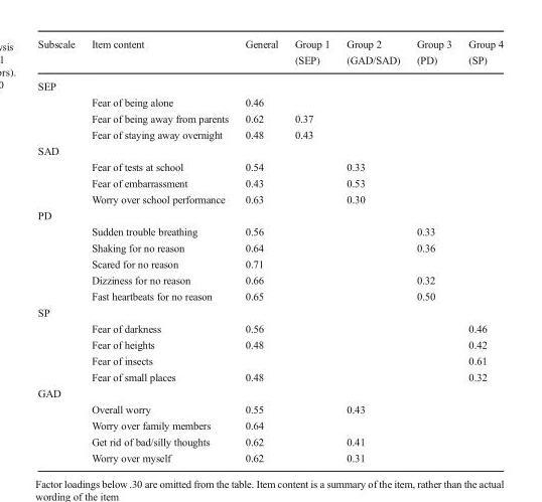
<table><thead><tr><td>Subscale</td><td>Item content</td><td>General</td><td>Group 1 (SEP)</td><td>Group 2 (GAD/SAD)</td><td>Group 3 (PD)</td><td>Group 4 (SP)</td></tr></thead><tbody><tr><td colspan="7">SEP</td></tr><tr><td></td><td>Fear of being alone</td><td>0.46</td><td></td><td></td><td></td><td></td></tr><tr><td></td><td>Fear of being away from parents</td><td>0.62</td><td>0.37</td><td></td><td></td><td></td></tr><tr><td></td><td>Fear of staying away overnight</td><td>0.48</td><td>0.43</td><td></td><td></td><td></td></tr><tr><td colspan="7">SAD</td></tr><tr><td></td><td>Fear of tests at school</td><td>0.54</td><td></td><td>0.33</td><td></td><td></td></tr><tr><td></td><td>Fear of embarrassment</td><td>0.43</td><td></td><td>0.53</td><td></td><td></td></tr><tr><td></td><td>Worry over school performance</td><td>0.63</td><td></td><td>0.30</td><td></td><td></td></tr><tr><td colspan="7">PD</td></tr><tr><td></td><td>Sudden trouble breathing</td><td>0.56</td><td></td><td></td><td>0.33</td><td></td></tr><tr><td></td><td>Shaking for no reason</td><td>0.64</td><td></td><td></td><td>0.36</td><td></td></tr><tr><td></td><td>Scared for no reason</td><td>0.71</td><td></td><td></td><td></td><td></td></tr><tr><td></td><td>Dizziness for no reason</td><td>0.66</td><td></td><td></td><td>0.32</td><td></td></tr><tr><td></td><td>Fast heartbeats for no reason</td><td>0.65</td><td></td><td></td><td>0.50</td><td></td></tr><tr><td colspan="7">SP</td></tr><tr><td></td><td>Fear of darkness</td><td>0.56</td><td></td><td></td><td></td><td>0.46</td></tr><tr><td></td><td>Fear of heights</td><td>0.48</td><td></td><td></td><td></td><td>0.42</td></tr><tr><td></td><td>Fear of insects</td><td></td><td></td><td></td><td></td><td>0.61</td></tr><tr><td></td><td>Fear of small places</td><td>0.48</td><td></td><td></td><td></td><td>0.32</td></tr><tr><td colspan="7">GAD</td></tr><tr><td></td><td>Overall worry</td><td>0.55</td><td></td><td>0.43</td><td></td><td></td></tr><tr><td></td><td>Worry over family members</td><td>0.64</td><td></td><td></td><td></td><td></td></tr><tr><td></td><td>Get rid of bad/silly thoughts</td><td>0.62</td><td></td><td>0.41</td><td></td><td></td></tr><tr><td></td><td>Worry over myself</td><td>0.62</td><td></td><td>0.31</td><td></td><td></td></tr></tbody></table>